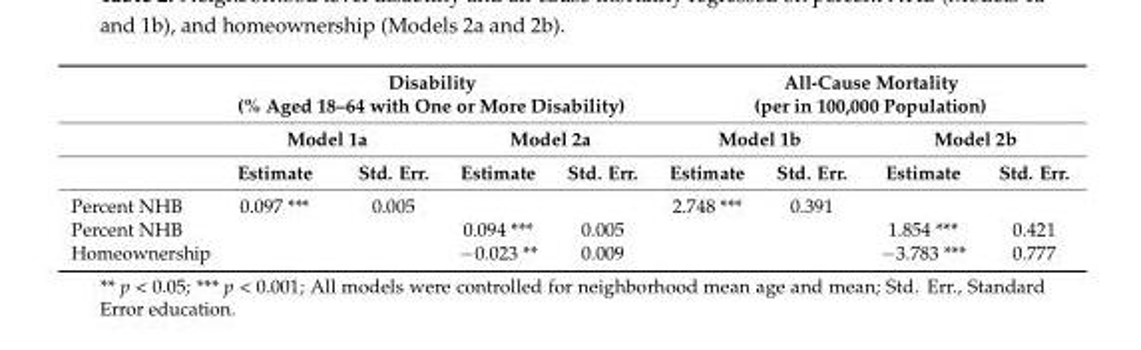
<table><thead><tr><td rowspan="3"></td><td colspan="4">Disability (% Aged 18–64 with One or More Disability)</td><td colspan="4">All-Cause Mortality (per in 100,000 Population)</td></tr><tr><td colspan="2">Model 1a</td><td colspan="2">Model 2a</td><td colspan="2">Model 1b</td><td colspan="2">Model 2b</td></tr><tr><td>Estimate</td><td>Std. Err.</td><td>Estimate</td><td>Std. Err.</td><td>Estimate</td><td>Std. Err.</td><td>Estimate</td><td>Std. Err.</td></tr></thead><tbody><tr><td>Percent NHB</td><td>0.097 ***</td><td>0.005</td><td></td><td></td><td>2.748 ***</td><td>0.391</td><td></td><td></td></tr><tr><td>Percent NHB</td><td></td><td></td><td>0.094 ***</td><td>0.005</td><td></td><td></td><td>1.854 ***</td><td>0.421</td></tr><tr><td>Homeownership</td><td></td><td></td><td>−0.023 **</td><td>0.009</td><td></td><td></td><td>−3.783 ***</td><td>0.777</td></tr></tbody></table>